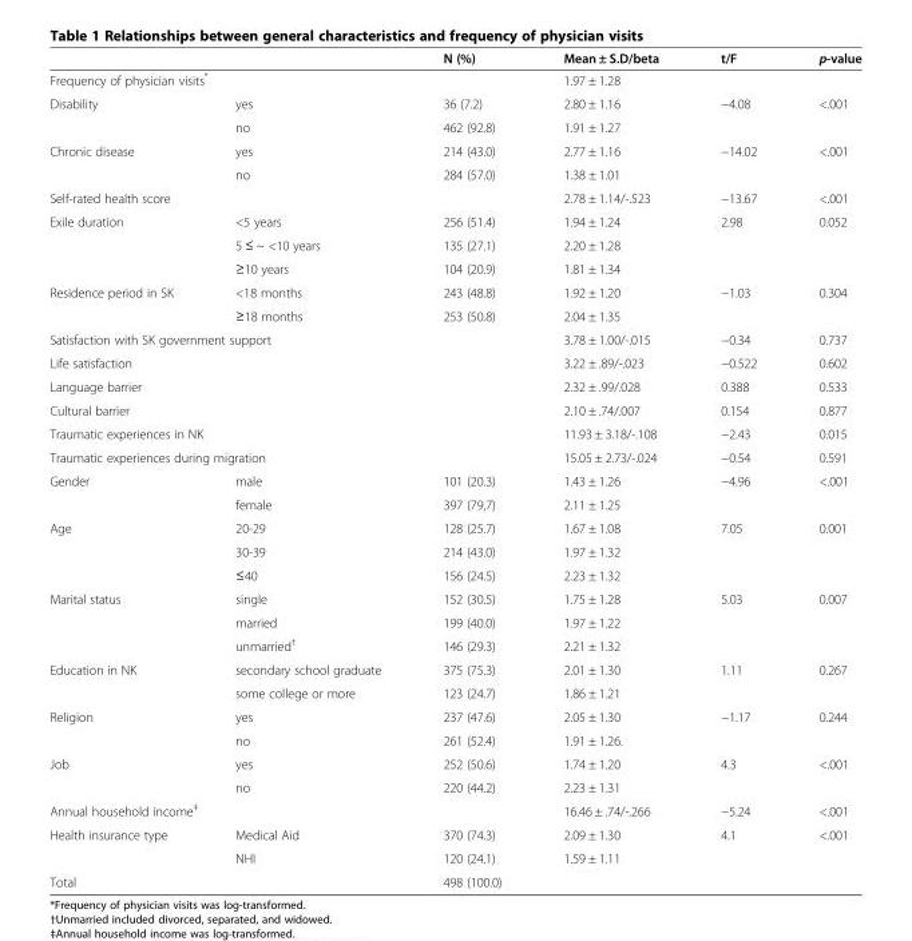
<table><thead><tr><td></td><td></td><td>N (%)</td><td>Mean ± S.D/beta</td><td>t/F</td><td>p-value</td></tr></thead><tbody><tr><td colspan="2">Frequency of physician visits*</td><td></td><td>1.97 ± 1.28</td><td colspan="2"></td></tr><tr><td rowspan="2">Disability</td><td>yes</td><td>36 (7.2)</td><td>2.80 ± 1.16</td><td rowspan="2">−4.08</td><td rowspan="2">&lt;.001</td></tr><tr><td>no</td><td>462 (92.8)</td><td>1.91 ± 1.27</td></tr><tr><td rowspan="2">Chronic disease</td><td>yes</td><td>214 (43.0)</td><td>2.77 ± 1.16</td><td rowspan="2">−14.02</td><td rowspan="2">&lt;.001</td></tr><tr><td>no</td><td>284 (57.0)</td><td>1.38 ± 1.01</td></tr><tr><td colspan="2">Self-rated health score</td><td></td><td>2.78 ± 1.14/-.523</td><td>−13.67</td><td>&lt;.001</td></tr><tr><td rowspan="3">Exile duration</td><td>&lt;5 years</td><td>256 (51.4)</td><td>1.94 ± 1.24</td><td rowspan="3">2.98</td><td rowspan="3">0.052</td></tr><tr><td>5 ≤ ~ &lt;10 years</td><td>135 (27.1)</td><td>2.20 ± 1.28</td></tr><tr><td>≥10 years</td><td>104 (20.9)</td><td>1.81 ± 1.34</td></tr><tr><td rowspan="2">Residence period in SK</td><td>&lt;18 months</td><td>243 (48.8)</td><td>1.92 ± 1.20</td><td rowspan="2">−1.03</td><td rowspan="2">0.304</td></tr><tr><td>≥18 months</td><td>253 (50.8)</td><td>2.04 ± 1.35</td></tr><tr><td colspan="2">Satisfaction with SK government support</td><td></td><td>3.78 ± 1.00/-.015</td><td>−0.34</td><td>0.737</td></tr><tr><td colspan="2">Life satisfaction</td><td></td><td>3.22 ± .89/-.023</td><td>−0.522</td><td>0.602</td></tr><tr><td colspan="2">Language barrier</td><td></td><td>2.32 ± .99/.028</td><td>0.388</td><td>0.533</td></tr><tr><td colspan="2">Cultural barrier</td><td></td><td>2.10 ± .74/.007</td><td>0.154</td><td>0.877</td></tr><tr><td colspan="2">Traumatic experiences in NK</td><td></td><td>11.93 ± 3.18/-.108</td><td>−2.43</td><td>0.015</td></tr><tr><td colspan="2">Traumatic experiences during migration</td><td></td><td>15.05 ± 2.73/-.024</td><td>−0.54</td><td>0.591</td></tr><tr><td rowspan="2">Gender</td><td>male</td><td>101 (20.3)</td><td>1.43 ± 1.26</td><td rowspan="2">−4.96</td><td rowspan="2">&lt;.001</td></tr><tr><td>female</td><td>397 (79,7)</td><td>2.11 ± 1.25</td></tr><tr><td rowspan="3">Age</td><td>20-29</td><td>128 (25.7)</td><td>1.67 ± 1.08</td><td rowspan="3">7.05</td><td rowspan="3">0.001</td></tr><tr><td>30-39</td><td>214 (43.0)</td><td>1.97 ± 1.32</td></tr><tr><td>≤40</td><td>156 (24.5)</td><td>2.23 ± 1.32</td></tr><tr><td rowspan="3">Marital status</td><td>single</td><td>152 (30.5)</td><td>1.75 ± 1.28</td><td rowspan="3">5.03</td><td rowspan="3">0.007</td></tr><tr><td>married</td><td>199 (40.0)</td><td>1.97 ± 1.22</td></tr><tr><td>unmarried<sup>†</sup></td><td>146 (29.3)</td><td>2.21 ± 1.32</td></tr><tr><td rowspan="2">Education in NK</td><td>secondary school graduate</td><td>375 (75.3)</td><td>2.01 ± 1.30</td><td rowspan="2">1.11</td><td rowspan="2">0.267</td></tr><tr><td>some college or more</td><td>123 (24.7)</td><td>1.86 ± 1.21</td></tr><tr><td rowspan="2">Religion</td><td>yes</td><td>237 (47.6)</td><td>2.05 ± 1.30</td><td rowspan="2">−1.17</td><td rowspan="2">0.244</td></tr><tr><td>no</td><td>261 (52.4)</td><td>1.91 ± 1.26.</td></tr><tr><td rowspan="2">Job</td><td>yes</td><td>252 (50.6)</td><td>1.74 ± 1.20</td><td rowspan="2">4.3</td><td rowspan="2">&lt;.001</td></tr><tr><td>no</td><td>220 (44.2)</td><td>2.23 ± 1.31</td></tr><tr><td colspan="2">Annual household income<sup>‡</sup></td><td></td><td>16.46 ± .74/-.266</td><td>−5.24</td><td>&lt;.001</td></tr><tr><td rowspan="2">Health insurance type</td><td>Medical Aid</td><td>370 (74.3)</td><td>2.09 ± 1.30</td><td rowspan="2">4.1</td><td rowspan="2">&lt;.001</td></tr><tr><td>NHI</td><td>120 (24.1)</td><td>1.59 ± 1.11</td></tr><tr><td colspan="2">Total</td><td>498 (100.0)</td><td colspan="3"></td></tr></tbody></table>